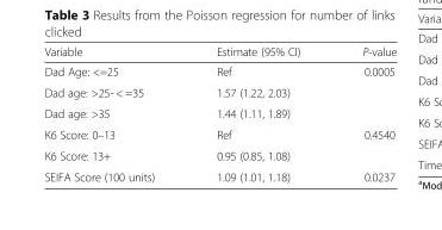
<table><thead><tr><td>Variable</td><td>Estimate (95% CI)</td><td>P-value</td></tr></thead><tbody><tr><td>Dad Age: &lt;=25</td><td>Ref</td><td rowspan="3">0.0005</td></tr><tr><td>Dad age: &gt;25- &lt; =35</td><td>1.57 (1.22, 2.03)</td></tr><tr><td>Dad age: &gt;35</td><td>1.44 (1.11, 1.89)</td></tr><tr><td>K6 Score: 0–13</td><td>Ref</td><td rowspan="2">0.4540</td></tr><tr><td>K6 Score: 13+</td><td>0.95 (0.85, 1.08)</td></tr><tr><td>SEIFA Score (100 units)</td><td>1.09 (1.01, 1.18)</td><td>0.0237</td></tr></tbody></table>